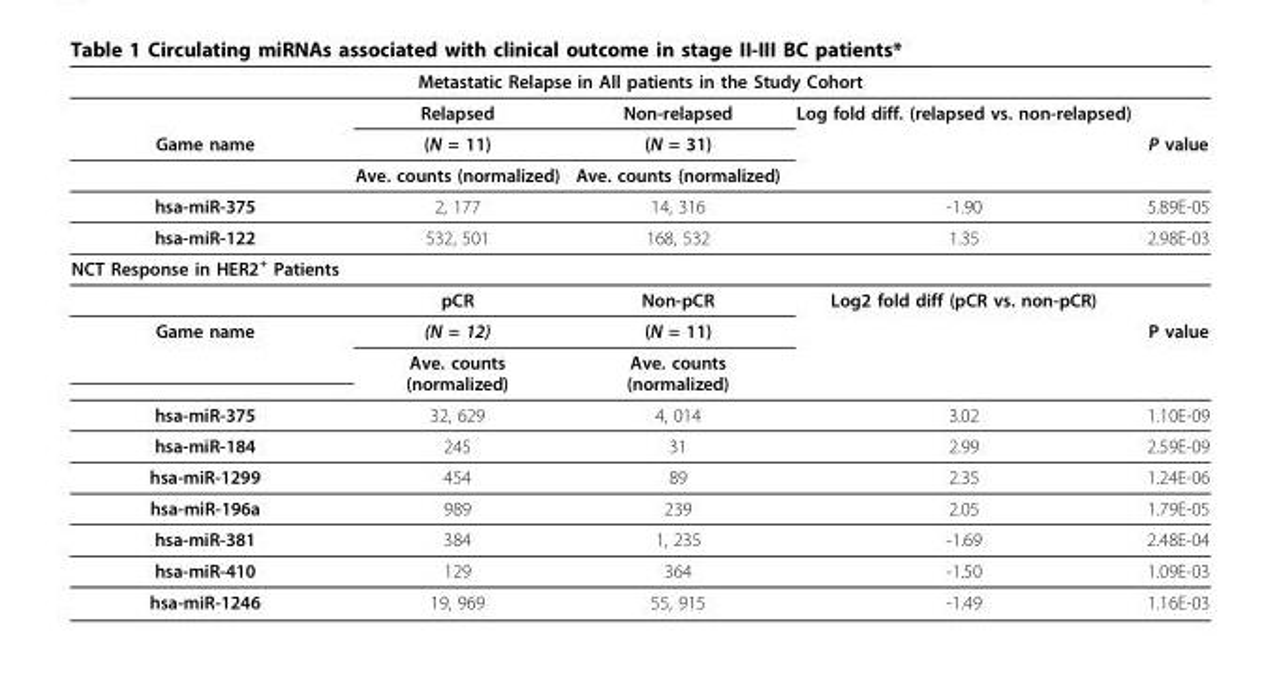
<table><thead><tr><td colspan="5">Metastatic Relapse in All patients in the Study Cohort</td></tr><tr><td></td><td>Relapsed</td><td>Non-relapsed</td><td>Log fold diff. (relapsed vs. non-relapsed)</td><td></td></tr></thead><tbody><tr><td rowspan="2">Game name</td><td>(N = 11)</td><td>(N = 31)</td><td></td><td>P value</td></tr><tr><td>Ave. counts (normalized)</td><td>Ave. counts (normalized)</td><td></td><td></td></tr><tr><td>hsa-miR-375</td><td>2, 177</td><td>14, 316</td><td>-1.90</td><td>5.89E-05</td></tr><tr><td>hsa-miR-122</td><td>532, 501</td><td>168, 532</td><td>1.35</td><td>2.98E-03</td></tr><tr><td colspan="5">NCT Response in HER2<sup>+</sup> Patients</td></tr><tr><td></td><td>pCR</td><td>Non-pCR</td><td>Log2 fold diff (pCR vs. non-pCR)</td><td></td></tr><tr><td rowspan="2">Game name</td><td>(N = 12)</td><td>(N = 11)</td><td></td><td>P value</td></tr><tr><td>Ave. counts (normalized)</td><td>Ave. counts (normalized)</td><td></td><td></td></tr><tr><td>hsa-miR-375</td><td>32, 629</td><td>4, 014</td><td>3.02</td><td>1.10E-09</td></tr><tr><td>hsa-miR-184</td><td>245</td><td>31</td><td>2.99</td><td>2.59E-09</td></tr><tr><td>hsa-miR-1299</td><td>454</td><td>89</td><td>2.35</td><td>1.24E-06</td></tr><tr><td>hsa-miR-196a</td><td>989</td><td>239</td><td>2.05</td><td>1.79E-05</td></tr><tr><td>hsa-miR-381</td><td>384</td><td>1, 235</td><td>-1.69</td><td>2.48E-04</td></tr><tr><td>hsa-miR-410</td><td>129</td><td>364</td><td>-1.50</td><td>1.09E-03</td></tr><tr><td>hsa-miR-1246</td><td>19, 969</td><td>55, 915</td><td>-1.49</td><td>1.16E-03</td></tr></tbody></table>